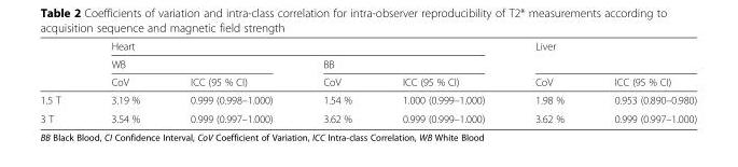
<table><thead><tr><td rowspan="3"></td><td colspan="4">Heart</td><td rowspan="2" colspan="2">Liver</td></tr><tr><td colspan="2">WB</td><td colspan="2">BB</td></tr><tr><td>CoV</td><td>ICC (95 % CI)</td><td>CoV</td><td>ICC (95 % CI)</td><td>CoV</td><td>ICC (95 % CI)</td></tr></thead><tbody><tr><td>1.5 T</td><td>3.19 %</td><td>0.999 (0.998–1.000)</td><td>1.54 %</td><td>1.000 (0.999–1.000)</td><td>1.98 %</td><td>0.953 (0.890–0.980)</td></tr><tr><td>3 T</td><td>3.54 %</td><td>0.999 (0.997–1.000)</td><td>3.62 %</td><td>0.999 (0.999–1.000)</td><td>3.62 %</td><td>0.999 (0.997–1.000)</td></tr></tbody></table>